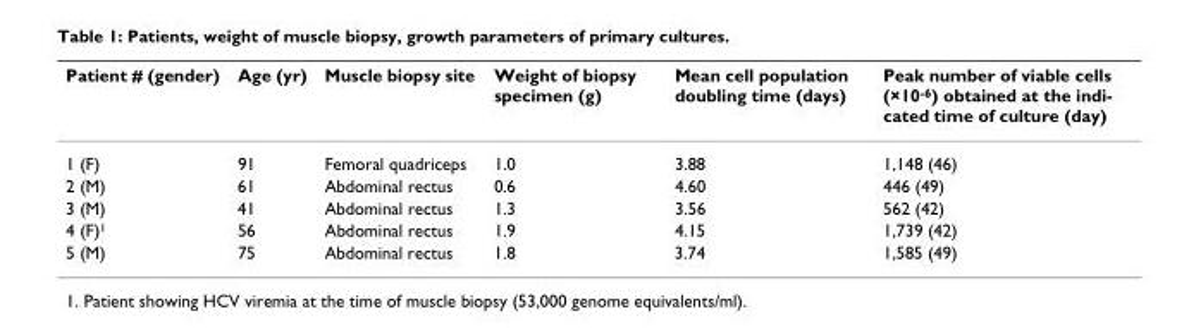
<table><thead><tr><td>Patient # (gender)</td><td>Age (yr)</td><td>Muscle biopsy site</td><td>Weight of biopsy specimen (g)</td><td>Mean cell population doubling time (days)</td><td>Peak number of viable cells (×10-6) obtained at the indi- cated time of culture (day)</td></tr></thead><tbody><tr><td>1 (F)</td><td>91</td><td>Femoral quadriceps</td><td>1.0</td><td>3.88</td><td>1,148 (46)</td></tr><tr><td>2 (M)</td><td>61</td><td>Abdominal rectus</td><td>0.6</td><td>4.60</td><td>446 (49)</td></tr><tr><td>3 (M)</td><td>41</td><td>Abdominal rectus</td><td>1.3</td><td>3.56</td><td>562 (42)</td></tr><tr><td>4 (F)<sup>1</sup></td><td>56</td><td>Abdominal rectus</td><td>1.9</td><td>4.15</td><td>1,739 (42)</td></tr><tr><td>5 (M)</td><td>75</td><td>Abdominal rectus</td><td>1.8</td><td>3.74</td><td>1,585 (49)</td></tr></tbody></table>